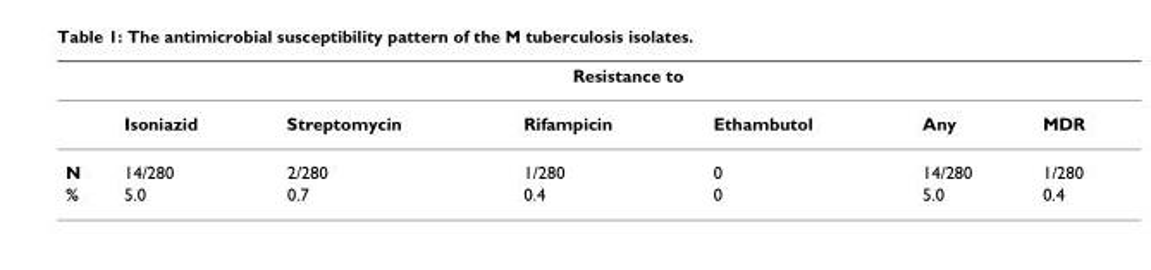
<table><thead><tr><td rowspan="2"></td><td colspan="6">Resistance to</td></tr><tr><td>Isoniazid</td><td>Streptomycin</td><td>Rifampicin</td><td>Ethambutol</td><td>Any</td><td>MDR</td></tr></thead><tbody><tr><td>N</td><td>14/280</td><td>2/280</td><td>1/280</td><td>0</td><td>14/280</td><td>1/280</td></tr><tr><td>%</td><td>5.0</td><td>0.7</td><td>0.4</td><td>0</td><td>5.0</td><td>0.4</td></tr></tbody></table>